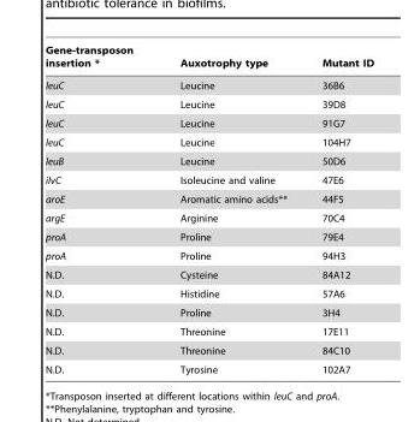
<table><thead><tr><td>Gene-transposon insertion *</td><td>Auxotrophy type</td><td>Mutant ID</td></tr></thead><tbody><tr><td>leuC</td><td>Leucine</td><td>36B6</td></tr><tr><td>leuC</td><td>Leucine</td><td>39D8</td></tr><tr><td>leuC</td><td>Leucine</td><td>91G7</td></tr><tr><td>leuC</td><td>Leucine</td><td>104H7</td></tr><tr><td>leuB</td><td>Leucine</td><td>50D6</td></tr><tr><td>ilvC</td><td>Isoleucine and valine</td><td>47E6</td></tr><tr><td>aroE</td><td>Aromatic amino acids**</td><td>44F5</td></tr><tr><td>argE</td><td>Arginine</td><td>70C4</td></tr><tr><td>proA</td><td>Proline</td><td>79E4</td></tr><tr><td>proA</td><td>Proline</td><td>94H3</td></tr><tr><td>N.D.</td><td>Cysteine</td><td>84A12</td></tr><tr><td>N.D.</td><td>Histidine</td><td>57A6</td></tr><tr><td>N.D.</td><td>Proline</td><td>3H4</td></tr><tr><td>N.D.</td><td>Threonine</td><td>17E11</td></tr><tr><td>N.D.</td><td>Threonine</td><td>84C10</td></tr><tr><td>N.D.</td><td>Tyrosine</td><td>102A7</td></tr></tbody></table>